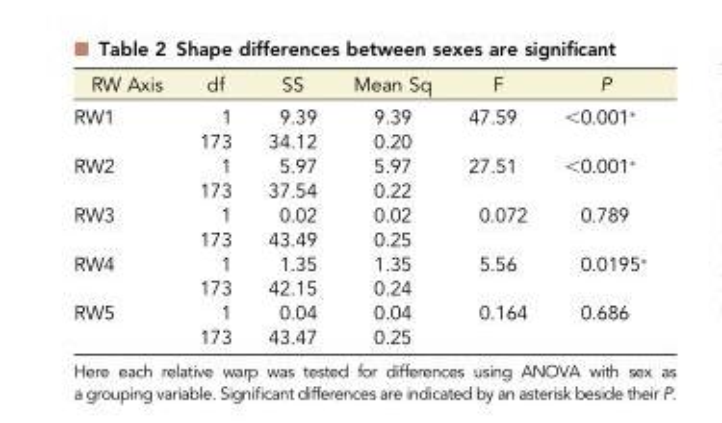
<table><thead><tr><td>RW Axis</td><td>df</td><td>SS</td><td>Mean Sq</td><td>F</td><td>P</td></tr></thead><tbody><tr><td rowspan="2">RW1</td><td>1</td><td>9.39</td><td>9.39</td><td>47.59</td><td>&lt;0.001*</td></tr><tr><td>173</td><td>34.12</td><td>0.20</td><td></td><td></td></tr><tr><td rowspan="2">RW2</td><td>1</td><td>5.97</td><td>5.97</td><td>27.51</td><td>&lt;0.001*</td></tr><tr><td>173</td><td>37.54</td><td>0.22</td><td></td><td></td></tr><tr><td rowspan="2">RW3</td><td>1</td><td>0.02</td><td>0.02</td><td>0.072</td><td>0.789</td></tr><tr><td>173</td><td>43.49</td><td>0.25</td><td></td><td></td></tr><tr><td rowspan="2">RW4</td><td>1</td><td>1.35</td><td>1.35</td><td>5.56</td><td>0.0195*</td></tr><tr><td>173</td><td>42.15</td><td>0.24</td><td></td><td></td></tr><tr><td rowspan="2">RW5</td><td>1</td><td>0.04</td><td>0.04</td><td>0.164</td><td>0.686</td></tr><tr><td>173</td><td>43.47</td><td>0.25</td><td></td><td></td></tr></tbody></table>